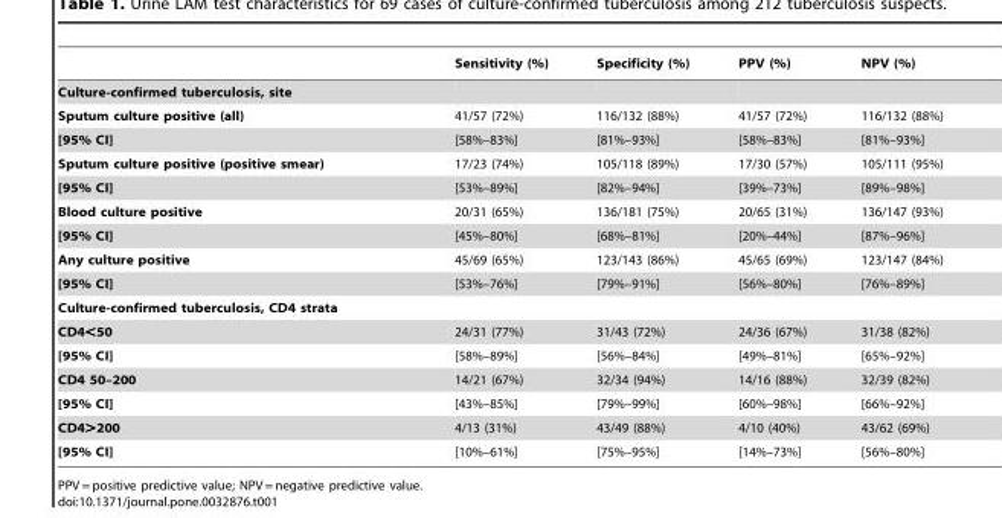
<table><thead><tr><td></td><td>Sensitivity (%)</td><td>Specificity (%)</td><td>PPV (%)</td><td>NPV (%)</td></tr></thead><tbody><tr><td colspan="5">Culture-confirmed tuberculosis, site</td></tr><tr><td>Sputum culture positive (all)</td><td>41/57 (72%)</td><td>116/132 (88%)</td><td>41/57 (72%)</td><td>116/132 (88%)</td></tr><tr><td>[95% CI]</td><td>[58%–83%]</td><td>[81%–93%]</td><td>[58%–83%]</td><td>[81%–93%]</td></tr><tr><td>Sputum culture positive (positive smear)</td><td>17/23 (74%)</td><td>105/118 (89%)</td><td>17/30 (57%)</td><td>105/111 (95%)</td></tr><tr><td>[95% CI]</td><td>[53%–89%]</td><td>[82%–94%]</td><td>[39%–73%]</td><td>[89%–98%]</td></tr><tr><td>Blood culture positive</td><td>20/31 (65%)</td><td>136/181 (75%)</td><td>20/65 (31%)</td><td>136/147 (93%)</td></tr><tr><td>[95% CI]</td><td>[45%–80%]</td><td>[68%–81%]</td><td>[20%–44%]</td><td>[87%–96%]</td></tr><tr><td>Any culture positive</td><td>45/69 (65%)</td><td>123/143 (86%)</td><td>45/65 (69%)</td><td>123/147 (84%)</td></tr><tr><td>[95% CI]</td><td>[53%–76%]</td><td>[79%–91%]</td><td>[56%–80%]</td><td>[76%–89%]</td></tr><tr><td colspan="5">Culture-confirmed tuberculosis, CD4 strata</td></tr><tr><td>CD4&lt;50</td><td>24/31 (77%)</td><td>31/43 (72%)</td><td>24/36 (67%)</td><td>31/38 (82%)</td></tr><tr><td>[95% CI]</td><td>[58%–89%]</td><td>[56%–84%]</td><td>[49%–81%]</td><td>[65%–92%]</td></tr><tr><td>CD4 50–200</td><td>14/21 (67%)</td><td>32/34 (94%)</td><td>14/16 (88%)</td><td>32/39 (82%)</td></tr><tr><td>[95% CI]</td><td>[43%–85%]</td><td>[79%–99%]</td><td>[60%–98%]</td><td>[66%–92%]</td></tr><tr><td>CD4&gt;200</td><td>4/13 (31%)</td><td>43/49 (88%)</td><td>4/10 (40%)</td><td>43/62 (69%)</td></tr><tr><td>[95% CI]</td><td>[10%–61%]</td><td>[75%–95%]</td><td>[14%–73%]</td><td>[56%–80%]</td></tr></tbody></table>